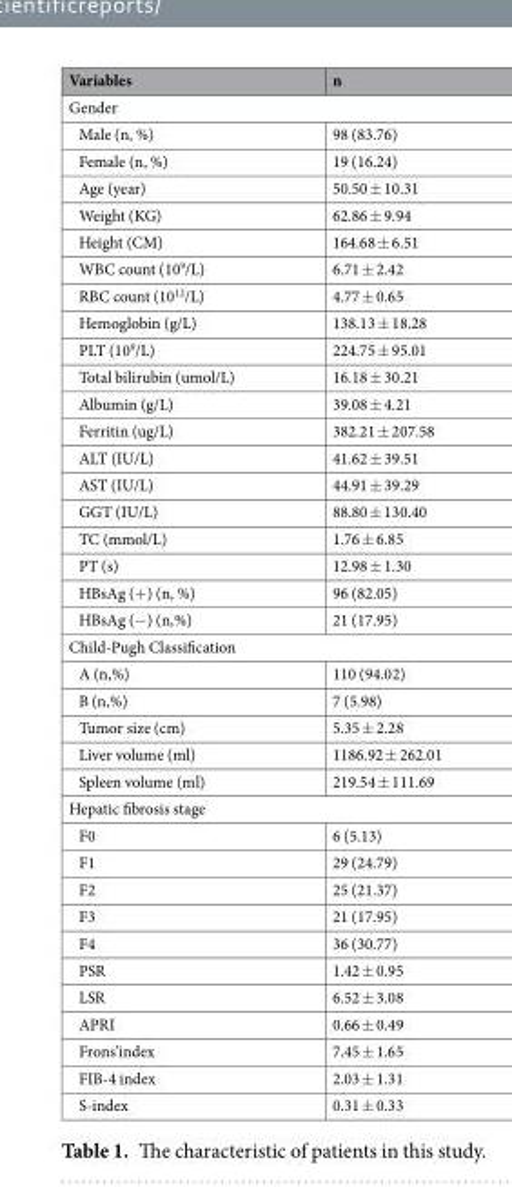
<table><thead><tr><td>Variables</td><td>n</td></tr></thead><tbody><tr><td colspan="2">Gender</td></tr><tr><td>Male (n, %)</td><td>98 (83.76)</td></tr><tr><td>Female (n, %)</td><td>19 (16.24)</td></tr><tr><td>Age (year)</td><td>50.50 ± 10.31</td></tr><tr><td>Weight (KG)</td><td>62.86 ± 9.94</td></tr><tr><td>Height (CM)</td><td>164.68 ± 6.51</td></tr><tr><td>WBC count (10<sup>9</sup>/L)</td><td>6.71 ± 2.42</td></tr><tr><td>RBC count (10<sup>12</sup>/L)</td><td>4.77 ± 0.65</td></tr><tr><td>Hemoglobin (g/L)</td><td>138.13 ± 18.28</td></tr><tr><td>PLT (10<sup>9</sup>/L)</td><td>224.75 ± 95.01</td></tr><tr><td>Total bilirubin (umol/L)</td><td>16.18 ± 30.21</td></tr><tr><td>Albumin (g/L)</td><td>39.08 ± 4.21</td></tr><tr><td>Ferritin (ug/L)</td><td>382.21 ± 207.58</td></tr><tr><td>ALT (IU/L)</td><td>41.62 ± 39.51</td></tr><tr><td>AST (IU/L)</td><td>44.91 ± 39.29</td></tr><tr><td>GGT (IU/L)</td><td>88.80 ± 130.40</td></tr><tr><td>TC (mmol/L)</td><td>1.76 ± 6.85</td></tr><tr><td>PT (s)</td><td>12.98 ± 1.30</td></tr><tr><td>HBsAg (+) (n, %)</td><td>96 (82.05)</td></tr><tr><td>HBsAg (−) (n,%)</td><td>21 (17.95)</td></tr><tr><td colspan="2">Child-Pugh Classification</td></tr><tr><td>A (n,%)</td><td>110 (94.02)</td></tr><tr><td>B (n,%)</td><td>7 (5.98)</td></tr><tr><td>Tumor size (cm)</td><td>5.35 ± 2.28</td></tr><tr><td>Liver volume (ml)</td><td>1186.92 ± 262.01</td></tr><tr><td>Spleen volume (ml)</td><td>219.54 ± 111.69</td></tr><tr><td colspan="2">Hepatic fibrosis stage</td></tr><tr><td>F0</td><td>6 (5.13)</td></tr><tr><td>F1</td><td>29 (24.79)</td></tr><tr><td>F2</td><td>25 (21.37)</td></tr><tr><td>F3</td><td>21 (17.95)</td></tr><tr><td>F4</td><td>36 (30.77)</td></tr><tr><td>PSR</td><td>1.42 ± 0.95</td></tr><tr><td>LSR</td><td>6.52 ± 3.08</td></tr><tr><td>APRI</td><td>0.66 ± 0.49</td></tr><tr><td>Frons’index</td><td>7.45 ± 1.65</td></tr><tr><td>FIB-4 index</td><td>2.03 ± 1.31</td></tr><tr><td>S-index</td><td>0.31 ± 0.33</td></tr></tbody></table>